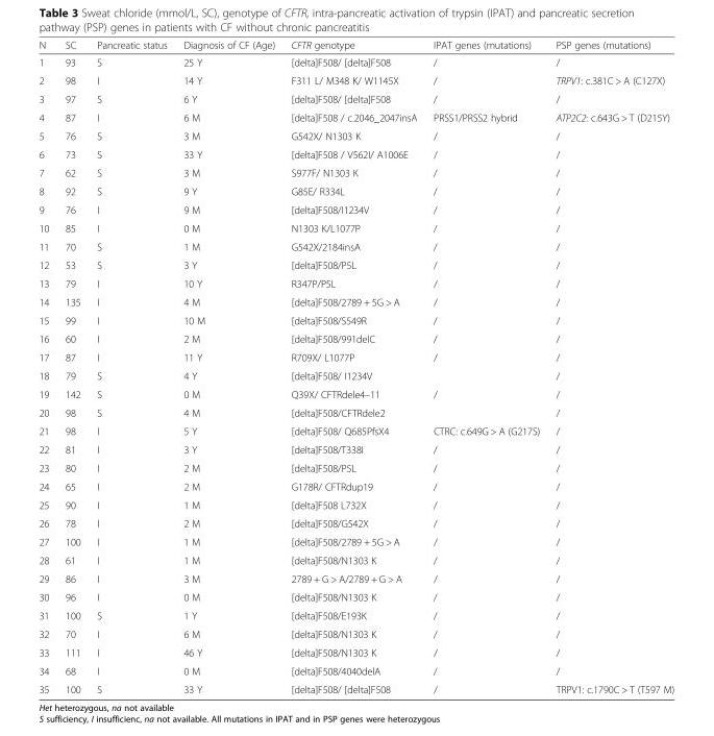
<table><thead><tr><td>N</td><td>SC</td><td>Pancreatic status</td><td>Diagnosis of CF (Age)</td><td>CFTR genotype</td><td>IPAT genes (mutations)</td><td>PSP genes (mutations)</td></tr></thead><tbody><tr><td>1</td><td>93</td><td>S</td><td>25 Y</td><td>[delta]F508/ [delta]F508</td><td>/</td><td>/</td></tr><tr><td>2</td><td>98</td><td>I</td><td>14 Y</td><td>F311 L/ M348 K/ W1145X</td><td>/</td><td>TRPV1: c.381C &gt; A (C127X)</td></tr><tr><td>3</td><td>97</td><td>S</td><td>6 Y</td><td>[delta]F508/ [delta]F508</td><td>/</td><td>/</td></tr><tr><td>4</td><td>87</td><td>I</td><td>6 M</td><td>[delta]F508 / c.2046_2047insA</td><td>PRSS1/PRSS2 hybrid</td><td>ATP2C2: c.643G &gt; T (D215Y)</td></tr><tr><td>5</td><td>76</td><td>S</td><td>3 M</td><td>G542X/ N1303 K</td><td>/</td><td>/</td></tr><tr><td>6</td><td>73</td><td>S</td><td>33 Y</td><td>[delta]F508 / V562I/ A1006E</td><td>/</td><td>/</td></tr><tr><td>7</td><td>62</td><td>S</td><td>3 M</td><td>S977F/ N1303 K</td><td>/</td><td>/</td></tr><tr><td>8</td><td>92</td><td>S</td><td>9 Y</td><td>G85E/ R334L</td><td>/</td><td>/</td></tr><tr><td>9</td><td>76</td><td>I</td><td>9 M</td><td>[delta]F508/I1234V</td><td>/</td><td>/</td></tr><tr><td>10</td><td>85</td><td>I</td><td>0 M</td><td>N1303 K/L1077P</td><td>/</td><td>/</td></tr><tr><td>11</td><td>70</td><td>S</td><td>1 M</td><td>G542X/2184insA</td><td>/</td><td>/</td></tr><tr><td>12</td><td>53</td><td>S</td><td>3 Y</td><td>[delta]F508/P5L</td><td>/</td><td>/</td></tr><tr><td>13</td><td>79</td><td>I</td><td>10 Y</td><td>R347P/P5L</td><td>/</td><td>/</td></tr><tr><td>14</td><td>135</td><td>I</td><td>4 M</td><td>[delta]F508/2789 + 5G &gt; A</td><td>/</td><td>/</td></tr><tr><td>15</td><td>99</td><td>I</td><td>10 M</td><td>[delta]F508/S549R</td><td>/</td><td>/</td></tr><tr><td>16</td><td>60</td><td>I</td><td>2 M</td><td>[delta]F508/991delC</td><td>/</td><td>/</td></tr><tr><td>17</td><td>87</td><td>I</td><td>11 Y</td><td>R709X/ L1077P</td><td>/</td><td>/</td></tr><tr><td>18</td><td>79</td><td>S</td><td>4 Y</td><td>[delta]F508/ I1234V</td><td></td><td>/</td></tr><tr><td>19</td><td>142</td><td>S</td><td>0 M</td><td>Q39X/ CFTRdele4–11</td><td>/</td><td>/</td></tr><tr><td>20</td><td>98</td><td>S</td><td>4 M</td><td>[delta]F508/CFTRdele2</td><td></td><td>/</td></tr><tr><td>21</td><td>98</td><td>I</td><td>5 Y</td><td>[delta]F508/ Q685PfsX4</td><td>CTRC: c.649G &gt; A (G217S)</td><td>/</td></tr><tr><td>22</td><td>81</td><td>I</td><td>3 Y</td><td>[delta]F508/T338I</td><td>/</td><td>/</td></tr><tr><td>23</td><td>80</td><td>I</td><td>2 M</td><td>[delta]F508/P5L</td><td>/</td><td>/</td></tr><tr><td>24</td><td>65</td><td>I</td><td>2 M</td><td>G178R/ CFTRdup19</td><td>/</td><td>/</td></tr><tr><td>25</td><td>90</td><td>I</td><td>1 M</td><td>[delta]F508 L732X</td><td>/</td><td>/</td></tr><tr><td>26</td><td>78</td><td>I</td><td>2 M</td><td>[delta]F508/G542X</td><td>/</td><td>/</td></tr><tr><td>27</td><td>100</td><td>I</td><td>1 M</td><td>[delta]F508/2789 + 5G &gt; A</td><td>/</td><td>/</td></tr><tr><td>28</td><td>61</td><td>I</td><td>1 M</td><td>[delta]F508/N1303 K</td><td>/</td><td>/</td></tr><tr><td>29</td><td>86</td><td>I</td><td>3 M</td><td>2789 + G &gt; A/2789 + G &gt; A</td><td>/</td><td>/</td></tr><tr><td>30</td><td>96</td><td>I</td><td>0 M</td><td>[delta]F508/N1303 K</td><td>/</td><td>/</td></tr><tr><td>31</td><td>100</td><td>S</td><td>1 Y</td><td>[delta]F508/E193K</td><td>/</td><td>/</td></tr><tr><td>32</td><td>70</td><td>I</td><td>6 M</td><td>[delta]F508/N1303 K</td><td>/</td><td>/</td></tr><tr><td>33</td><td>111</td><td>I</td><td>46 Y</td><td>[delta]F508/N1303 K</td><td>/</td><td>/</td></tr><tr><td>34</td><td>68</td><td>I</td><td>0 M</td><td>[delta]F508/4040delA</td><td>/</td><td>/</td></tr><tr><td>35</td><td>100</td><td>S</td><td>33 Y</td><td>[delta]F508/ [delta]F508</td><td>/</td><td>TRPV1: c.1790C &gt; T (T597 M)</td></tr></tbody></table>